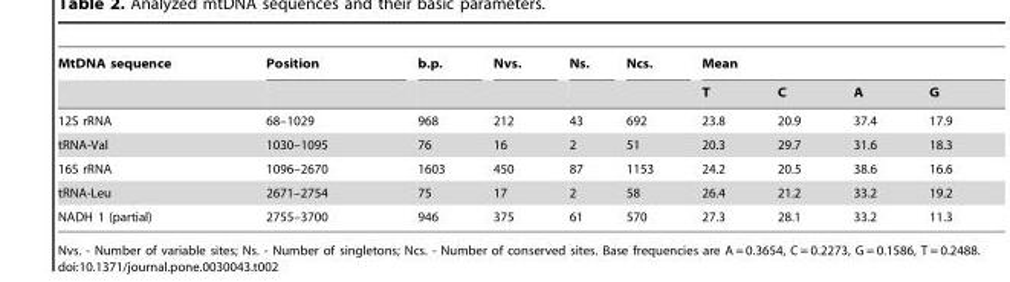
<table><thead><tr><td rowspan="2">MtDNA sequence</td><td rowspan="2">Position</td><td rowspan="2">b.p.</td><td rowspan="2">Nvs.</td><td rowspan="2">Ns.</td><td rowspan="2">Ncs.</td><td colspan="4">Mean</td></tr><tr><td>T</td><td>C</td><td>A</td><td>G</td></tr></thead><tbody><tr><td>12S rRNA</td><td>68–1029</td><td>968</td><td>212</td><td>43</td><td>692</td><td>23.8</td><td>20.9</td><td>37.4</td><td>17.9</td></tr><tr><td>tRNA-Val</td><td>1030–1095</td><td>76</td><td>16</td><td>2</td><td>51</td><td>20.3</td><td>29.7</td><td>31.6</td><td>18.3</td></tr><tr><td>16S rRNA</td><td>1096–2670</td><td>1603</td><td>450</td><td>87</td><td>1153</td><td>24.2</td><td>20.5</td><td>38.6</td><td>16.6</td></tr><tr><td>tRNA-Leu</td><td>2671–2754</td><td>75</td><td>17</td><td>2</td><td>58</td><td>26.4</td><td>21.2</td><td>33.2</td><td>19.2</td></tr><tr><td>NADH 1 (partial)</td><td>2755–3700</td><td>946</td><td>375</td><td>61</td><td>570</td><td>27.3</td><td>28.1</td><td>33.2</td><td>11.3</td></tr></tbody></table>